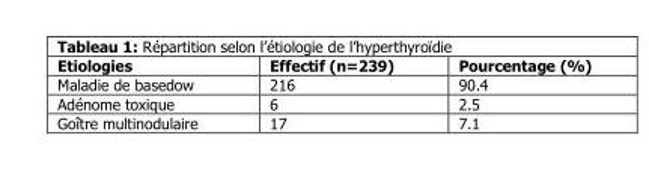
<table><thead><tr><td>Etiologies</td><td>Effectif (n=239)</td><td>Pourcentage (%)</td></tr></thead><tbody><tr><td>Maladie de basedow</td><td>216</td><td>90.4</td></tr><tr><td>Adénome toxique</td><td>6</td><td>2.5</td></tr><tr><td>Goître multinodulaire</td><td>17</td><td>7.1</td></tr></tbody></table>